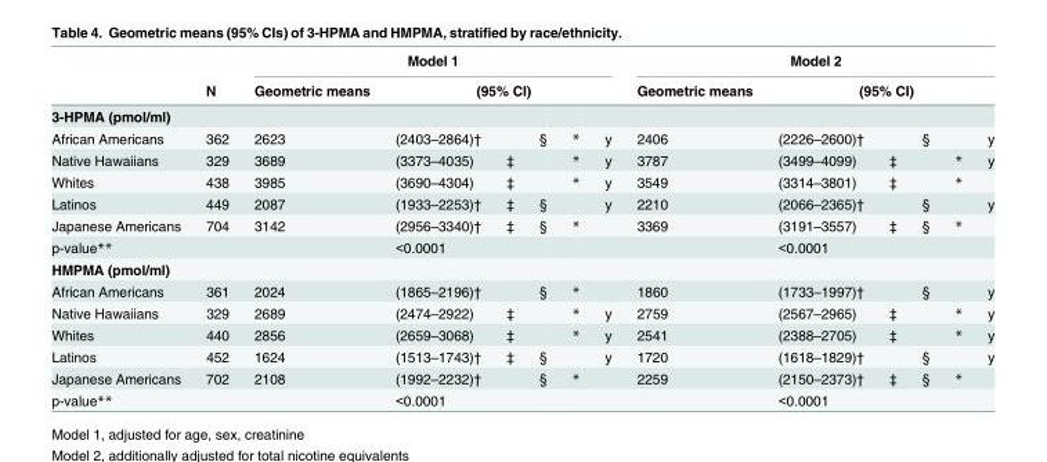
<table><thead><tr><td rowspan="3">3-HPMA (pmol/ml)</td><td rowspan="3">N</td><td colspan="6">Model 1</td><td colspan="6">Model 2</td></tr><tr><td rowspan="2">Geometric means</td><td colspan="5">(95% CI)</td><td rowspan="2">Geometric means</td><td colspan="5">(95% CI)</td></tr><tr><td></td><td></td><td></td><td></td><td></td><td></td><td></td><td></td><td></td><td></td></tr></thead><tbody><tr><td>African Americans</td><td>362</td><td>2623</td><td>(2403–2864)†</td><td></td><td>§</td><td>*</td><td>y</td><td>2406</td><td>(2226–2600)†</td><td></td><td>§</td><td></td><td>y</td></tr><tr><td>Native Hawaiians</td><td>329</td><td>3689</td><td>(3373–4035)</td><td>‡</td><td></td><td>*</td><td>y</td><td>3787</td><td>(3499–4099)</td><td>‡</td><td></td><td>*</td><td>y</td></tr><tr><td>Whites</td><td>438</td><td>3985</td><td>(3690–4304)</td><td>‡</td><td></td><td>*</td><td>y</td><td>3549</td><td>(3314–3801)</td><td>‡</td><td></td><td>*</td><td></td></tr><tr><td>Latinos</td><td>449</td><td>2087</td><td>(1933–2253)†</td><td>‡</td><td>§</td><td></td><td>y</td><td>2210</td><td>(2066–2365)†</td><td></td><td>§</td><td></td><td>y</td></tr><tr><td>Japanese Americans</td><td>704</td><td>3142</td><td>(2956–3340)†</td><td>‡</td><td>§</td><td>*</td><td></td><td>3369</td><td>(3191–3557)</td><td>‡</td><td>§</td><td>*</td><td></td></tr><tr><td>p-value**</td><td></td><td></td><td>&lt;0.0001</td><td></td><td></td><td></td><td></td><td></td><td>&lt;0.0001</td><td></td><td></td><td></td><td></td></tr><tr><td colspan="14">HMPMA (pmol/ml)</td></tr><tr><td>African Americans</td><td>361</td><td>2024</td><td>(1865–2196)†</td><td></td><td>§</td><td>*</td><td></td><td>1860</td><td>(1733–1997)†</td><td></td><td>§</td><td></td><td>y</td></tr><tr><td>Native Hawaiians</td><td>329</td><td>2689</td><td>(2474–2922)</td><td>‡</td><td></td><td>*</td><td>y</td><td>2759</td><td>(2567–2965)</td><td>‡</td><td></td><td>*</td><td>y</td></tr><tr><td>Whites</td><td>440</td><td>2856</td><td>(2659–3068)</td><td>‡</td><td></td><td>*</td><td>y</td><td>2541</td><td>(2388–2705)</td><td>‡</td><td></td><td>*</td><td>y</td></tr><tr><td>Latinos</td><td>452</td><td>1624</td><td>(1513–1743)†</td><td>‡</td><td>§</td><td></td><td>y</td><td>1720</td><td>(1618–1829)†</td><td></td><td>§</td><td></td><td>y</td></tr><tr><td>Japanese Americans</td><td>702</td><td>2108</td><td>(1992–2232)†</td><td></td><td>§</td><td>*</td><td></td><td>2259</td><td>(2150–2373)†</td><td>‡</td><td>§</td><td>*</td><td></td></tr><tr><td>p-value**</td><td></td><td></td><td>&lt;0.0001</td><td></td><td></td><td></td><td></td><td></td><td>&lt;0.0001</td><td></td><td></td><td></td><td></td></tr></tbody></table>